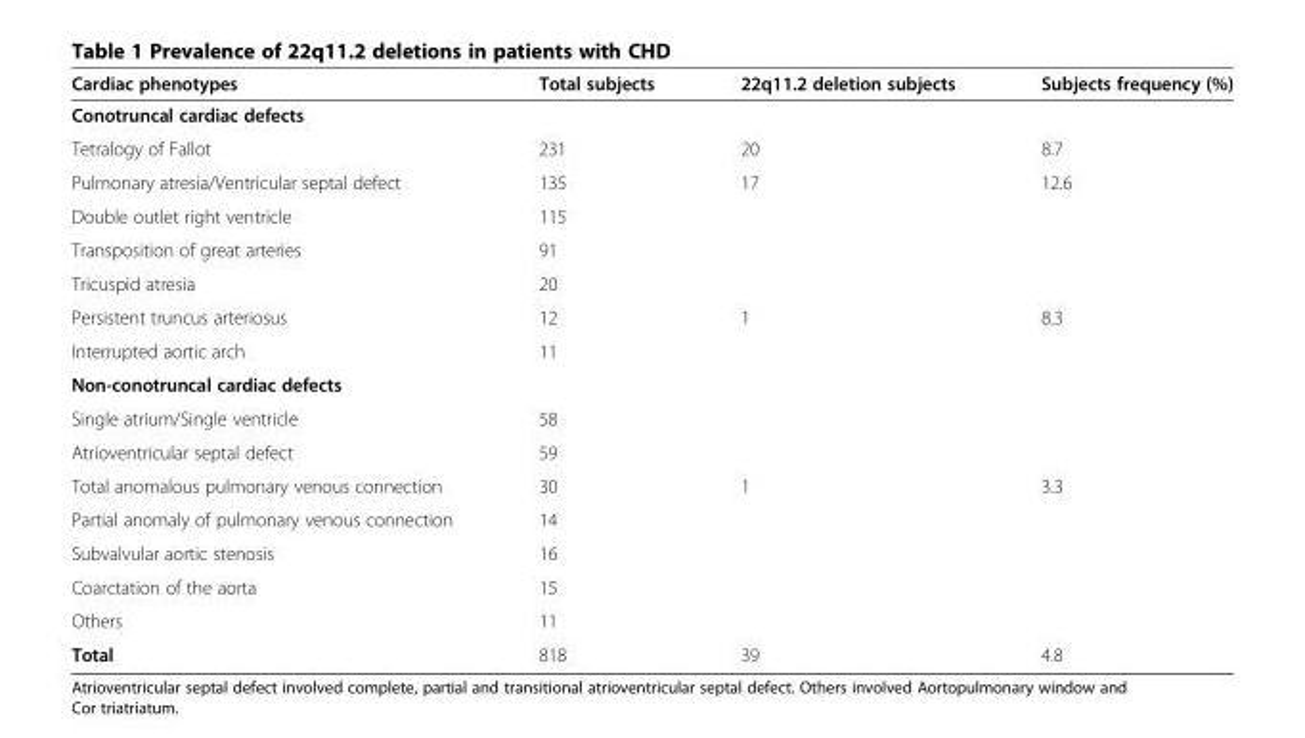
<table><thead><tr><td>Cardiac phenotypes</td><td>Total subjects</td><td>22q11.2 deletion subjects</td><td>Subjects frequency (%)</td></tr></thead><tbody><tr><td colspan="4">Conotruncal cardiac defects</td></tr><tr><td>Tetralogy of Fallot</td><td>231</td><td>20</td><td>8.7</td></tr><tr><td>Pulmonary atresia/Ventricular septal defect</td><td>135</td><td>17</td><td>12.6</td></tr><tr><td>Double outlet right ventricle</td><td>115</td><td></td><td></td></tr><tr><td>Transposition of great arteries</td><td>91</td><td></td><td></td></tr><tr><td>Tricuspid atresia</td><td>20</td><td></td><td></td></tr><tr><td>Persistent truncus arteriosus</td><td>12</td><td>1</td><td>8.3</td></tr><tr><td>Interrupted aortic arch</td><td>11</td><td></td><td></td></tr><tr><td colspan="4">Non-conotruncal cardiac defects</td></tr><tr><td>Single atrium/Single ventricle</td><td>58</td><td></td><td></td></tr><tr><td>Atrioventricular septal defect</td><td>59</td><td></td><td></td></tr><tr><td>Total anomalous pulmonary venous connection</td><td>30</td><td>1</td><td>3.3</td></tr><tr><td>Partial anomaly of pulmonary venous connection</td><td>14</td><td></td><td></td></tr><tr><td>Subvalvular aortic stenosis</td><td>16</td><td></td><td></td></tr><tr><td>Coarctation of the aorta</td><td>15</td><td></td><td></td></tr><tr><td>Others</td><td>11</td><td></td><td></td></tr><tr><td>Total</td><td>818</td><td>39</td><td>4.8</td></tr></tbody></table>